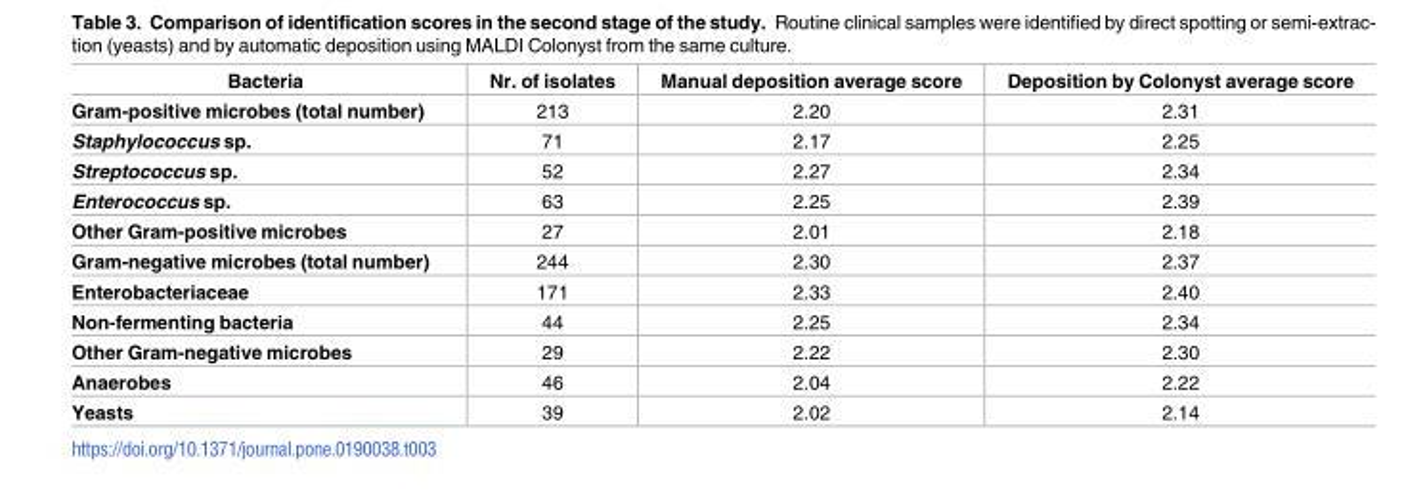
<table><thead><tr><td>Bacteria</td><td>Nr. of isolates</td><td>Manual deposition average score</td><td>Deposition by Colonyst average score</td></tr></thead><tbody><tr><td>Gram-positive microbes (total number)</td><td>213</td><td>2.20</td><td>2.31</td></tr><tr><td>Staphylococcus sp.</td><td>71</td><td>2.17</td><td>2.25</td></tr><tr><td>Streptococcus sp.</td><td>52</td><td>2.27</td><td>2.34</td></tr><tr><td>Enterococcus sp.</td><td>63</td><td>2.25</td><td>2.39</td></tr><tr><td>Other Gram-positive microbes</td><td>27</td><td>2.01</td><td>2.18</td></tr><tr><td>Gram-negative microbes (total number)</td><td>244</td><td>2.30</td><td>2.37</td></tr><tr><td>Enterobacteriaceae</td><td>171</td><td>2.33</td><td>2.40</td></tr><tr><td>Non-fermenting bacteria</td><td>44</td><td>2.25</td><td>2.34</td></tr><tr><td>Other Gram-negative microbes</td><td>29</td><td>2.22</td><td>2.30</td></tr><tr><td>Anaerobes</td><td>46</td><td>2.04</td><td>2.22</td></tr><tr><td>Yeasts</td><td>39</td><td>2.02</td><td>2.14</td></tr></tbody></table>